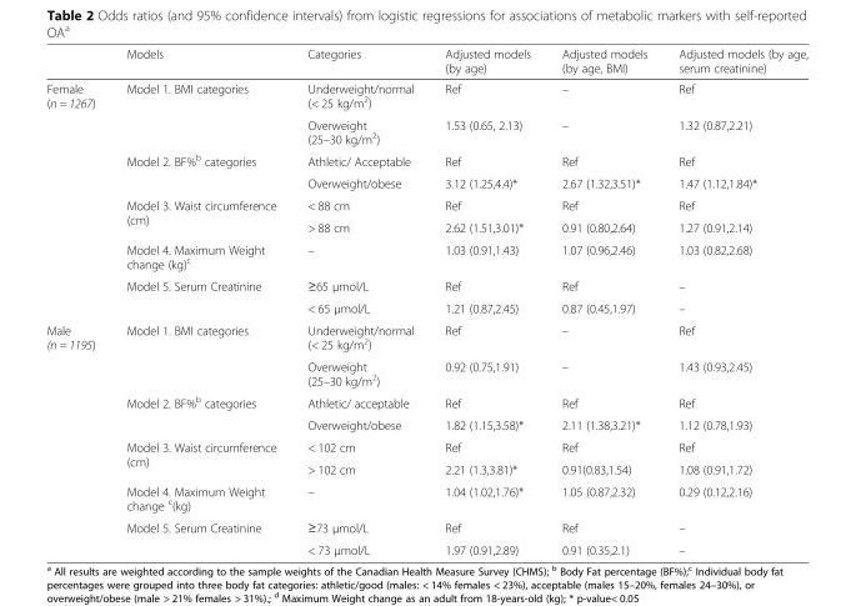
<table><thead><tr><td></td><td>Models</td><td>Categories</td><td>Adjusted models (by age)</td><td>Adjusted models (by age, BMI)</td><td>Adjusted models (by age, serum creatinine)</td></tr></thead><tbody><tr><td rowspan="9">Female (n = 1267)</td><td rowspan="2">Model 1. BMI categories</td><td>Underweight/normal (&lt; 25 kg/m<sup>2</sup>)</td><td>Ref</td><td>–</td><td>Ref</td></tr><tr><td>Overweight (25–30 kg/m<sup>2</sup>)</td><td>1.53 (0.65, 2.13)</td><td>–</td><td>1.32 (0.87,2.21)</td></tr><tr><td rowspan="2">Model 2. BF%<sup>b</sup> categories</td><td>Athletic/ Acceptable</td><td>Ref</td><td>Ref</td><td>Ref</td></tr><tr><td>Overweight/obese</td><td>3.12 (1.25,4.4)*</td><td>2.67 (1.32,3.51)*</td><td>1.47 (1.12,1.84)*</td></tr><tr><td rowspan="2">Model 3. Waist circumference (cm)</td><td>&lt; 88 cm</td><td>Ref</td><td>Ref</td><td>Ref</td></tr><tr><td>&gt; 88 cm</td><td>2.62 (1.51,3.01)*</td><td>0.91 (0.80,2.64)</td><td>1.27 (0.91,2.14)</td></tr><tr><td>Model 4. Maximum Weight change (kg)<sup>c</sup></td><td>–</td><td>1.03 (0.91,1.43)</td><td>1.07 (0.96,2.46)</td><td>1.03 (0.82,2.68)</td></tr><tr><td rowspan="2">Model 5. Serum Creatinine</td><td>≥65 μmol/L</td><td>Ref</td><td>Ref</td><td>–</td></tr><tr><td>&lt; 65 μmol/L</td><td>1.21 (0.87,2.45)</td><td>0.87 (0.45,1.97)</td><td>–</td></tr><tr><td rowspan="9">Male (n = 1195)</td><td>Model 1. BMI categories</td><td>Underweight/normal (&lt; 25 kg/m<sup>2</sup>)</td><td>Ref</td><td>–</td><td>Ref</td></tr><tr><td></td><td>Overweight (25–30 kg/m<sup>2</sup>)</td><td>0.92 (0.75,1.91)</td><td>–</td><td>1.43 (0.93,2.45)</td></tr><tr><td>Model 2. BF%<sup>b</sup> categories</td><td>Athletic/ acceptable</td><td>Ref</td><td>Ref</td><td>Ref</td></tr><tr><td></td><td>Overweight/obese</td><td>1.82 (1.15,3.58)*</td><td>2.11 (1.38,3.21)*</td><td>1.12 (0.78,1.93)</td></tr><tr><td rowspan="2">Model 3. Waist circumference (cm)</td><td>&lt; 102 cm</td><td>Ref</td><td>Ref</td><td>Ref</td></tr><tr><td>&gt; 102 cm</td><td>2.21 (1.3,3.81)*</td><td>0.91(0.83,1.54)</td><td>1.08 (0.91,1.72)</td></tr><tr><td>Model 4. Maximum Weight change <sup>c</sup>(kg)</td><td>–</td><td>1.04 (1.02,1.76)*</td><td>1.05 (0.87,2.32)</td><td>0.29 (0.12,2.16)</td></tr><tr><td rowspan="2">Model 5. Serum Creatinine</td><td>≥73 μmol/L</td><td>Ref</td><td>Ref</td><td>–</td></tr><tr><td>&lt; 73 μmol/L</td><td>1.97 (0.91,2.89)</td><td>0.91 (0.35,2.1)</td><td>–</td></tr></tbody></table>